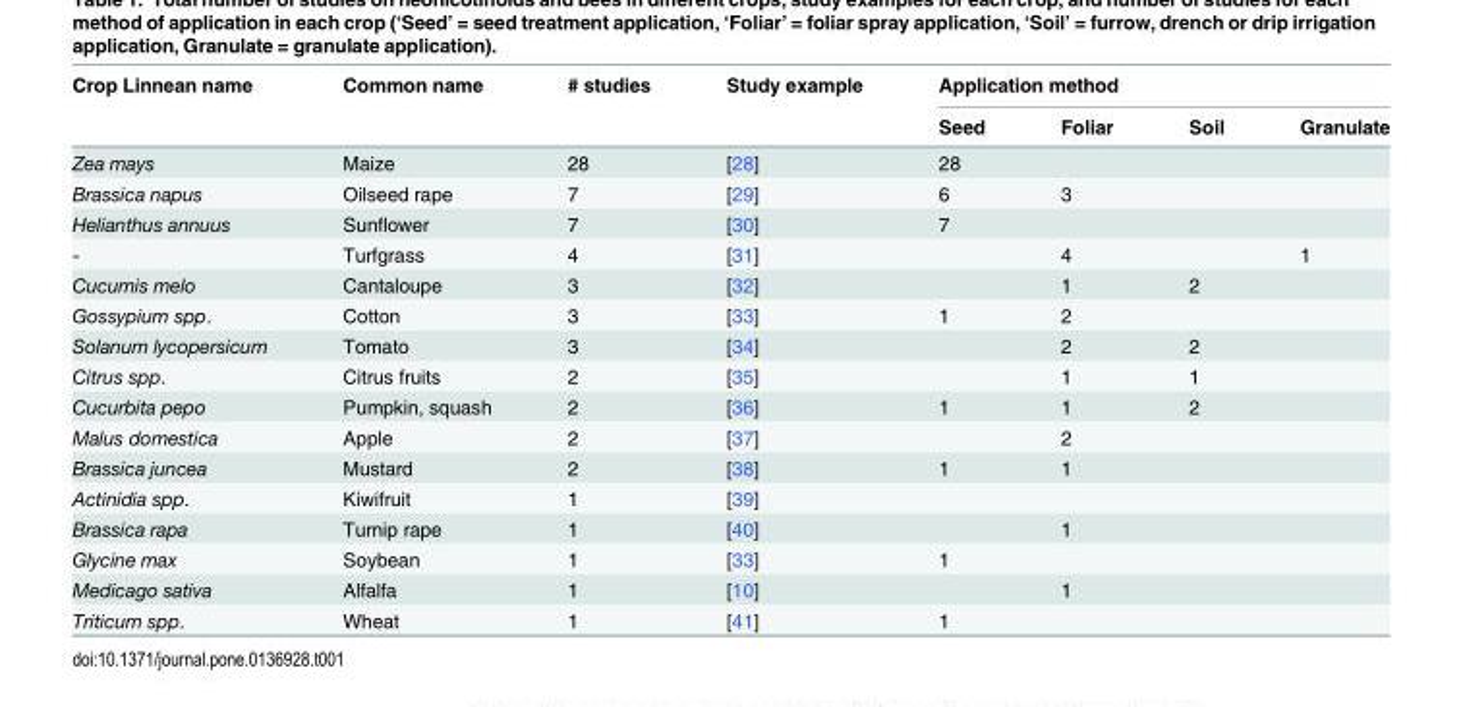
<table><thead><tr><td rowspan="2">Crop Linnean name</td><td rowspan="2">Common name</td><td rowspan="2"># studies</td><td rowspan="2">Study example</td><td colspan="4">Application method</td></tr><tr><td>Seed</td><td>Foliar</td><td>Soil</td><td>Granulate</td></tr></thead><tbody><tr><td>Zea mays</td><td>Maize</td><td>28</td><td>[28]</td><td>28</td><td></td><td></td><td></td></tr><tr><td>Brassica napus</td><td>Oilseed rape</td><td>7</td><td>[29]</td><td>6</td><td>3</td><td></td><td></td></tr><tr><td>Helianthus annuus</td><td>Sunflower</td><td>7</td><td>[30]</td><td>7</td><td></td><td></td><td></td></tr><tr><td>-</td><td>Turfgrass</td><td>4</td><td>[31]</td><td></td><td>4</td><td></td><td>1</td></tr><tr><td>Cucumis melo</td><td>Cantaloupe</td><td>3</td><td>[32]</td><td></td><td>1</td><td>2</td><td></td></tr><tr><td>Gossypium spp.</td><td>Cotton</td><td>3</td><td>[33]</td><td>1</td><td>2</td><td></td><td></td></tr><tr><td>Solanum lycopersicum</td><td>Tomato</td><td>3</td><td>[34]</td><td></td><td>2</td><td>2</td><td></td></tr><tr><td>Citrus spp.</td><td>Citrus fruits</td><td>2</td><td>[35]</td><td></td><td>1</td><td>1</td><td></td></tr><tr><td>Cucurbita pepo</td><td>Pumpkin, squash</td><td>2</td><td>[36]</td><td>1</td><td>1</td><td>2</td><td></td></tr><tr><td>Malus domestica</td><td>Apple</td><td>2</td><td>[37]</td><td></td><td>2</td><td></td><td></td></tr><tr><td>Brassica juncea</td><td>Mustard</td><td>2</td><td>[38]</td><td>1</td><td>1</td><td></td><td></td></tr><tr><td>Actinidia spp.</td><td>Kiwifruit</td><td>1</td><td>[39]</td><td></td><td></td><td></td><td></td></tr><tr><td>Brassica rapa</td><td>Turnip rape</td><td>1</td><td>[40]</td><td></td><td>1</td><td></td><td></td></tr><tr><td>Glycine max</td><td>Soybean</td><td>1</td><td>[33]</td><td>1</td><td></td><td></td><td></td></tr><tr><td>Medicago sativa</td><td>Alfalfa</td><td>1</td><td>[10]</td><td></td><td>1</td><td></td><td></td></tr><tr><td>Triticum spp.</td><td>Wheat</td><td>1</td><td>[41]</td><td>1</td><td></td><td></td><td></td></tr></tbody></table>